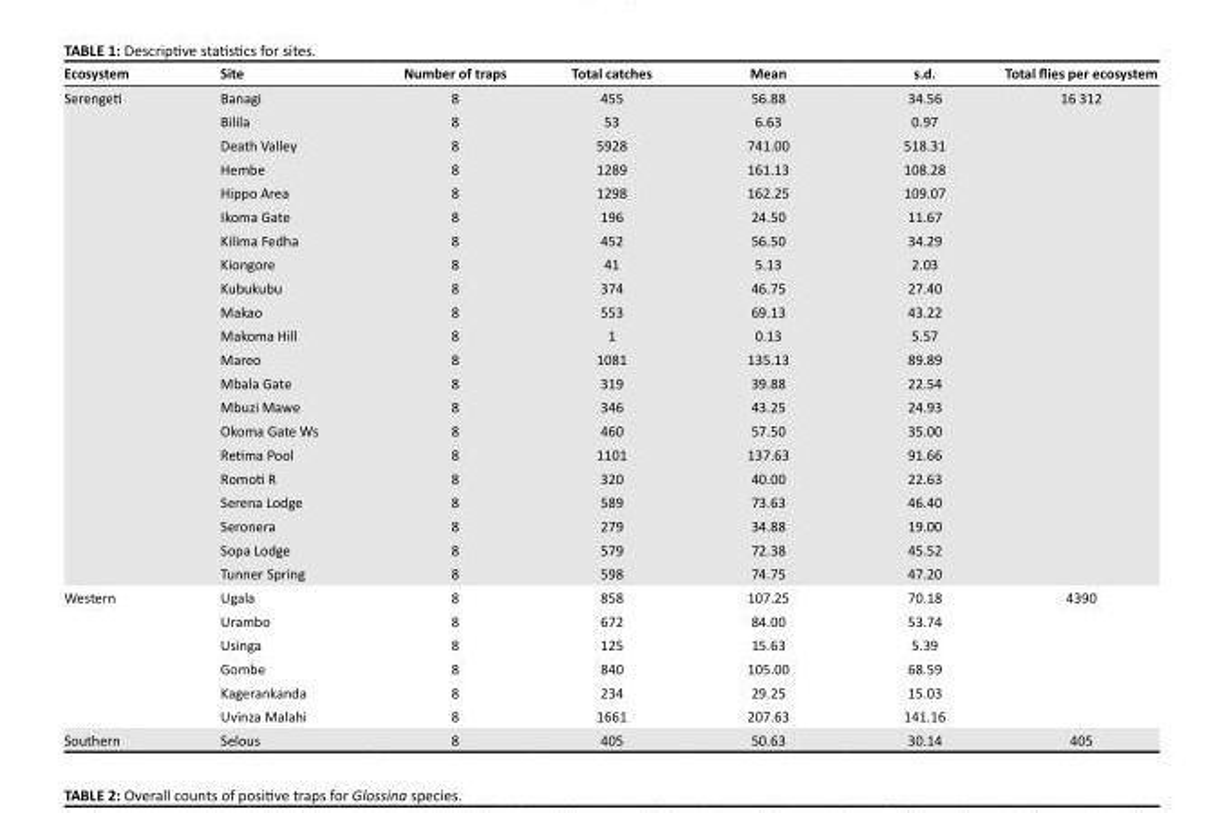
<table><thead><tr><td>Ecosystem</td><td>Site</td><td>Number of traps</td><td>Total catches</td><td>Mean</td><td>s.d.</td><td>Total flies per ecosystem</td></tr></thead><tbody><tr><td rowspan="21">Serengeti</td><td>Banagi</td><td>8</td><td>455</td><td>56.88</td><td>34.56</td><td>16 312</td></tr><tr><td>Bilila</td><td>8</td><td>53</td><td>6.63</td><td>0.97</td><td></td></tr><tr><td>Death Valley</td><td>8</td><td>5928</td><td>741.00</td><td>518.31</td><td></td></tr><tr><td>Hembe</td><td>8</td><td>1289</td><td>161.13</td><td>108.28</td><td></td></tr><tr><td>Hippo Area</td><td>8</td><td>1298</td><td>162.25</td><td>109.07</td><td></td></tr><tr><td>Ikoma Gate</td><td>8</td><td>196</td><td>24.50</td><td>11.67</td><td></td></tr><tr><td>Kilima Fedha</td><td>8</td><td>452</td><td>56.50</td><td>34.29</td><td></td></tr><tr><td>Kiongore</td><td>8</td><td>41</td><td>5.13</td><td>2.03</td><td></td></tr><tr><td>Kubukubu</td><td>8</td><td>374</td><td>46.75</td><td>27.40</td><td></td></tr><tr><td>Makao</td><td>8</td><td>553</td><td>69.13</td><td>43.22</td><td></td></tr><tr><td>Makoma Hill</td><td>8</td><td>1</td><td>0.13</td><td>5.57</td><td></td></tr><tr><td>Mareo</td><td>8</td><td>1081</td><td>135.13</td><td>89.89</td><td></td></tr><tr><td>Mbala Gate</td><td>8</td><td>319</td><td>39.88</td><td>22.54</td><td></td></tr><tr><td>Mbuzi Mawe</td><td>8</td><td>346</td><td>43.25</td><td>24.93</td><td></td></tr><tr><td>Okoma Gate Ws</td><td>8</td><td>460</td><td>57.50</td><td>35.00</td><td></td></tr><tr><td>Retima Pool</td><td>8</td><td>1101</td><td>137.63</td><td>91.66</td><td></td></tr><tr><td>Romoti R</td><td>8</td><td>320</td><td>40.00</td><td>22.63</td><td></td></tr><tr><td>Serena Lodge</td><td>8</td><td>589</td><td>73.63</td><td>46.40</td><td></td></tr><tr><td>Seronera</td><td>8</td><td>279</td><td>34.88</td><td>19.00</td><td></td></tr><tr><td>Sopa Lodge</td><td>8</td><td>579</td><td>72.38</td><td>45.52</td><td></td></tr><tr><td>Tunner Spring</td><td>8</td><td>598</td><td>74.75</td><td>47.20</td><td></td></tr><tr><td rowspan="6">Western</td><td>Ugala</td><td>8</td><td>858</td><td>107.25</td><td>70.18</td><td>4390</td></tr><tr><td>Urambo</td><td>8</td><td>672</td><td>84.00</td><td>53.74</td><td></td></tr><tr><td>Usinga</td><td>8</td><td>125</td><td>15.63</td><td>5.39</td><td></td></tr><tr><td>Gombe</td><td>8</td><td>840</td><td>105.00</td><td>68.59</td><td></td></tr><tr><td>Kagerankanda</td><td>8</td><td>234</td><td>29.25</td><td>15.03</td><td></td></tr><tr><td>Uvinza Malahi</td><td>8</td><td>1661</td><td>207.63</td><td>141.16</td><td></td></tr><tr><td>Southern</td><td>Selous</td><td>8</td><td>405</td><td>50.63</td><td>30.14</td><td>405</td></tr></tbody></table>